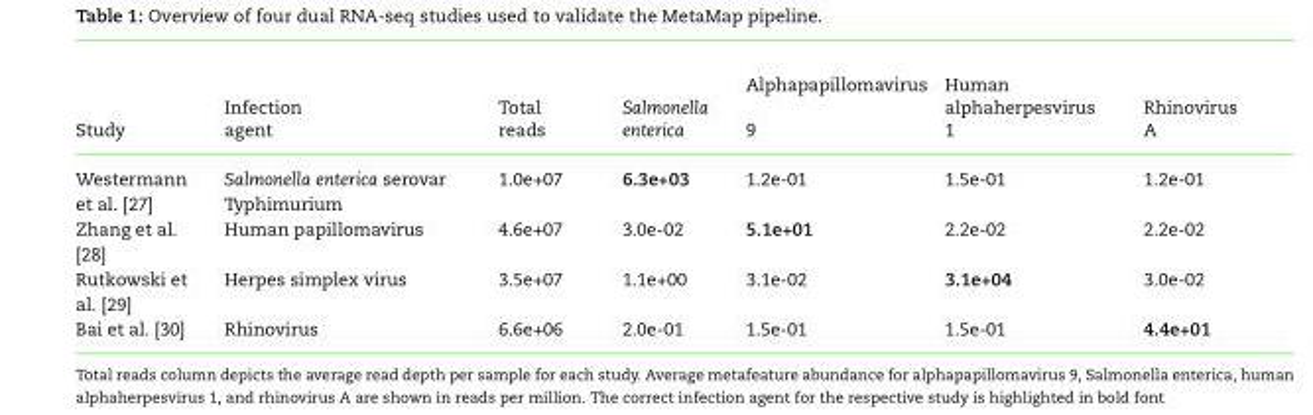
<table><thead><tr><td>Study</td><td>Infection agent</td><td>Total reads</td><td>Salmonella enterica</td><td>Alphapapillomavirus 9</td><td>Human alphaherpesvirus 1</td><td>Rhinovirus A</td></tr></thead><tbody><tr><td>Westermann et al. [27]</td><td>Salmonella enterica serovar Typhimurium</td><td>1.0e+07</td><td>6.3e+03</td><td>1.2e-01</td><td>1.5e-01</td><td>1.2e-01</td></tr><tr><td>Zhang et al. [28]</td><td>Human papillomavirus</td><td>4.6e+07</td><td>3.0e-02</td><td>5.1e+01</td><td>2.2e-02</td><td>2.2e-02</td></tr><tr><td>Rutkowski et al. [29]</td><td>Herpes simplex virus</td><td>3.5e+07</td><td>1.1e+00</td><td>3.1e-02</td><td>3.1e+04</td><td>3.0e-02</td></tr><tr><td>Bai et al. [30]</td><td>Rhinovirus</td><td>6.6e+06</td><td>2.0e-01</td><td>1.5e-01</td><td>1.5e-01</td><td>4.4e+01</td></tr></tbody></table>